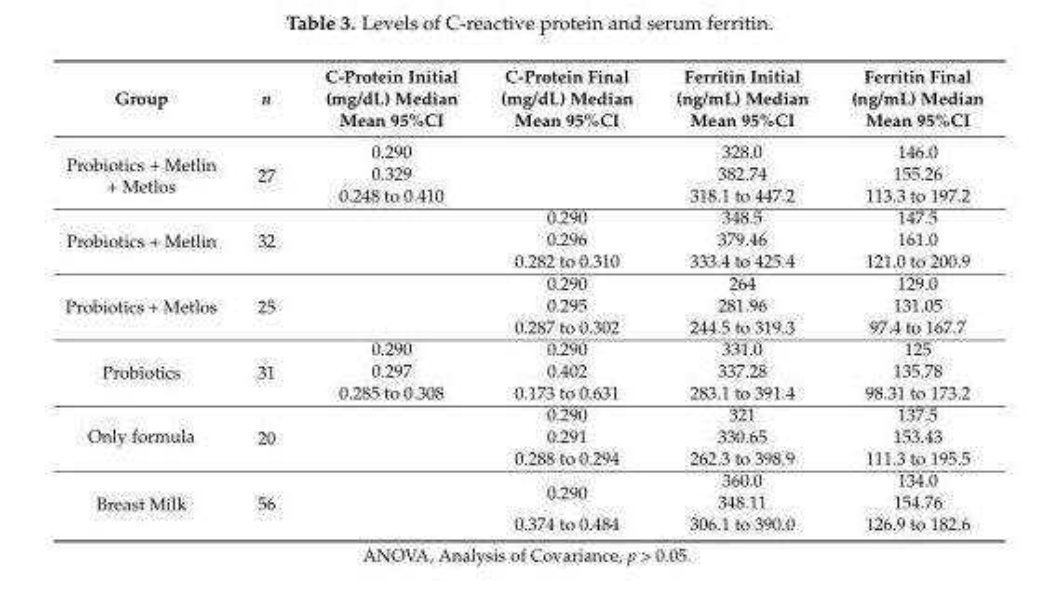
<table><thead><tr><td>Group</td><td>n</td><td>C-Protein Initial (mg/dL) Median Mean 95%CI</td><td>C-Protein Final (mg/dL) Median Mean 95%CI</td><td>Ferritin Initial (ng/mL) Median Mean 95%CI</td><td>Ferritin Final (ng/mL) Median Mean 95%CI</td></tr></thead><tbody><tr><td rowspan="3">Probiotics + Metlin + Metlos</td><td rowspan="3">27</td><td>0.290</td><td rowspan="3"></td><td>328.0</td><td>146.0</td></tr><tr><td>0.329</td><td>382.74</td><td>155.26</td></tr><tr><td>0.248 to 0.410</td><td>318.1 to 447.2</td><td>113.3 to 197.2</td></tr><tr><td rowspan="3">Probiotics + Metlin</td><td rowspan="3">32</td><td rowspan="3"></td><td>0.290</td><td>348.5</td><td>147.5</td></tr><tr><td>0.296</td><td>379.46</td><td>161.0</td></tr><tr><td>0.282 to 0.310</td><td>333.4 to 425.4</td><td>121.0 to 200.9</td></tr><tr><td rowspan="3">Probiotics + Metlos</td><td rowspan="3">25</td><td rowspan="3"></td><td>0.290</td><td>264</td><td>129.0</td></tr><tr><td>0.295</td><td>281.96</td><td>131.05</td></tr><tr><td>0.287 to 0.302</td><td>244.5 to 319.3</td><td>97.4 to 167.7</td></tr><tr><td rowspan="3">Probiotics</td><td rowspan="3">31</td><td>0.290</td><td>0.290</td><td>331.0</td><td>125</td></tr><tr><td>0.297</td><td>0.402</td><td>337.28</td><td>135.78</td></tr><tr><td>0.285 to 0.308</td><td>0.173 to 0.631</td><td>283.1 to 391.4</td><td>98.31 to 173.2</td></tr><tr><td rowspan="3">Only formula</td><td rowspan="3">20</td><td rowspan="3"></td><td>0.290</td><td>321</td><td>137.5</td></tr><tr><td>0.291</td><td>330.65</td><td>153.43</td></tr><tr><td>0.288 to 0.294</td><td>262.3 to 398.9</td><td>111.3 to 195.5</td></tr><tr><td rowspan="3">Breast Milk</td><td rowspan="3">56</td><td rowspan="3"></td><td rowspan="2">0.290</td><td>360.0</td><td>134.0</td></tr><tr><td>348.11</td><td>154.76</td></tr><tr><td>0.374 to 0.484</td><td>306.1 to 390.0</td><td>126.9 to 182.6</td></tr></tbody></table>